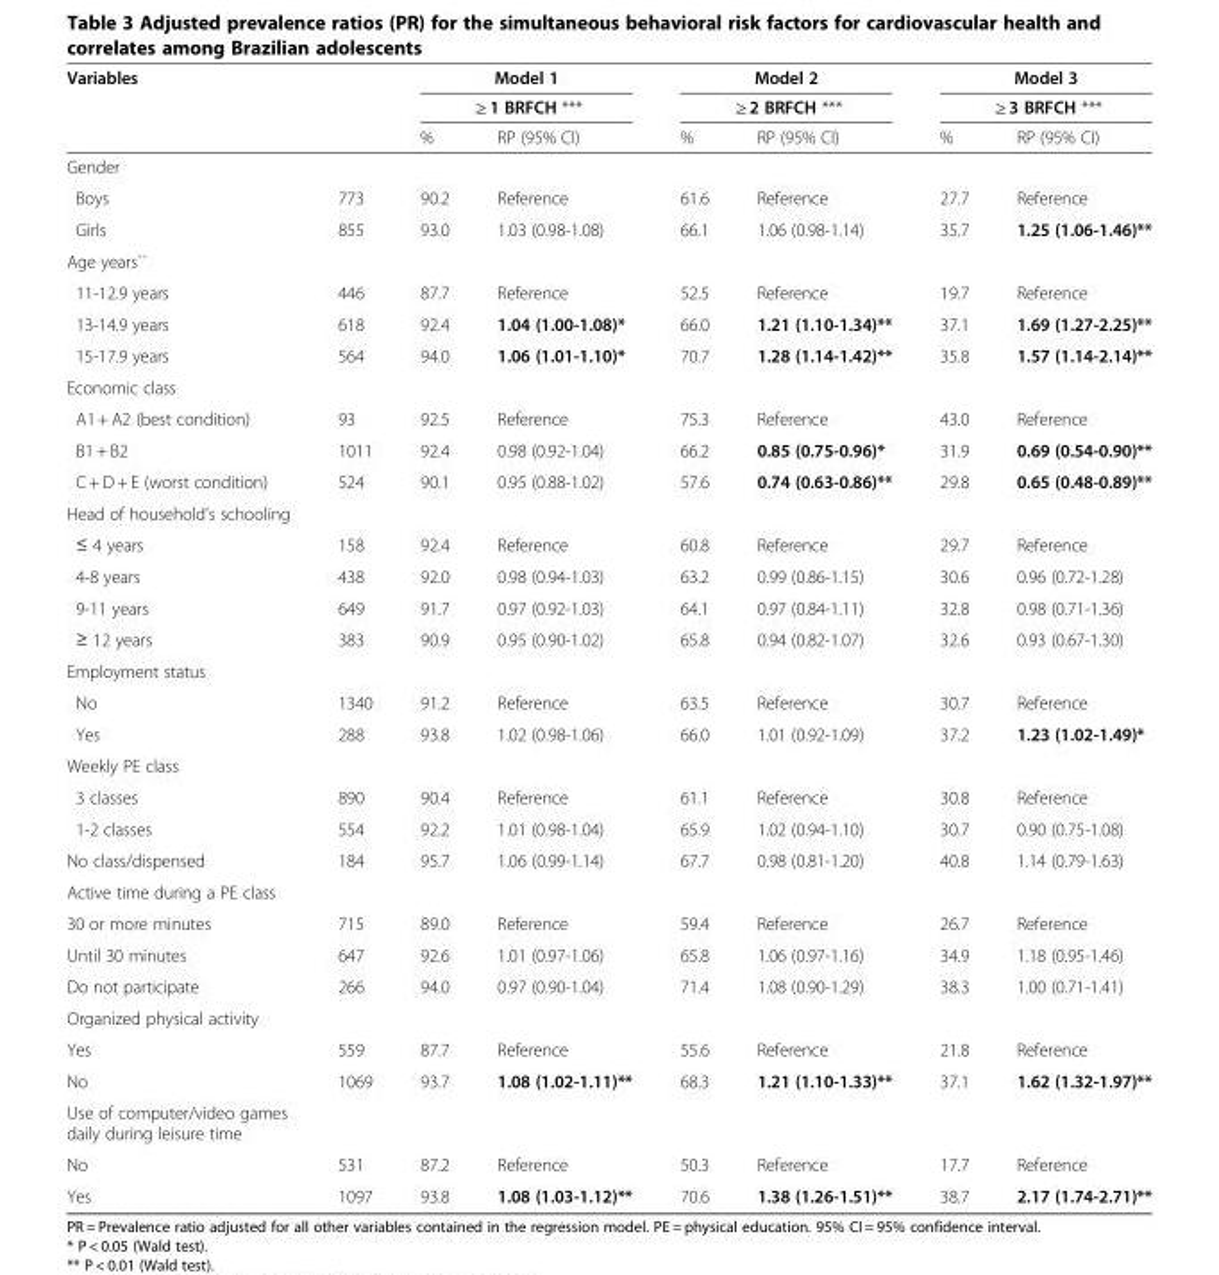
<table><thead><tr><td rowspan="3">Variables</td><td rowspan="3"></td><td rowspan="2" colspan="2">Model 1 ≥ 1 BRFCH ***</td><td rowspan="2" colspan="2">Model 2 ≥ 2 BRFCH ***</td><td rowspan="2" colspan="2">Model 3 ≥ 3 BRFCH ***</td></tr><tr></tr><tr><td>%</td><td>RP (95% CI)</td><td>%</td><td>RP (95% CI)</td><td>%</td><td>RP (95% CI)</td></tr></thead><tbody><tr><td colspan="8">Gender</td></tr><tr><td>Boys</td><td>773</td><td>90.2</td><td>Reference</td><td>61.6</td><td>Reference</td><td>27.7</td><td>Reference</td></tr><tr><td>Girls</td><td>855</td><td>93.0</td><td>1.03 (0.98-1.08)</td><td>66.1</td><td>1.06 (0.98-1.14)</td><td>35.7</td><td>1.25 (1.06-1.46)**</td></tr><tr><td colspan="8">Age years``</td></tr><tr><td>11-12.9 years</td><td>446</td><td>87.7</td><td>Reference</td><td>52.5</td><td>Reference</td><td>19.7</td><td>Reference</td></tr><tr><td>13-14.9 years</td><td>618</td><td>92.4</td><td>1.04 (1.00-1.08)*</td><td>66.0</td><td>1.21 (1.10-1.34)**</td><td>37.1</td><td>1.69 (1.27-2.25)**</td></tr><tr><td>15-17.9 years</td><td>564</td><td>94.0</td><td>1.06 (1.01-1.10)*</td><td>70.7</td><td>1.28 (1.14-1.42)**</td><td>35.8</td><td>1.57 (1.14-2.14)**</td></tr><tr><td colspan="8">Economic class</td></tr><tr><td>A1 + A2 (best condition)</td><td>93</td><td>92.5</td><td>Reference</td><td>75.3</td><td>Reference</td><td>43.0</td><td>Reference</td></tr><tr><td>B1 + B2</td><td>1011</td><td>92.4</td><td>0.98 (0.92-1.04)</td><td>66.2</td><td>0.85 (0.75-0.96)*</td><td>31.9</td><td>0.69 (0.54-0.90)**</td></tr><tr><td>C + D + E (worst condition)</td><td>524</td><td>90.1</td><td>0.95 (0.88-1.02)</td><td>57.6</td><td>0.74 (0.63-0.86)**</td><td>29.8</td><td>0.65 (0.48-0.89)**</td></tr><tr><td colspan="8">Head of household’s schooling</td></tr><tr><td>≤ 4 years</td><td>158</td><td>92.4</td><td>Reference</td><td>60.8</td><td>Reference</td><td>29.7</td><td>Reference</td></tr><tr><td>4-8 years</td><td>438</td><td>92.0</td><td>0.98 (0.94-1.03)</td><td>63.2</td><td>0.99 (0.86-1.15)</td><td>30.6</td><td>0.96 (0.72-1.28)</td></tr><tr><td>9-11 years</td><td>649</td><td>91.7</td><td>0.97 (0.92-1.03)</td><td>64.1</td><td>0.97 (0.84-1.11)</td><td>32.8</td><td>0.98 (0.71-1.36)</td></tr><tr><td>≥ 12 years</td><td>383</td><td>90.9</td><td>0.95 (0.90-1.02)</td><td>65.8</td><td>0.94 (0.82-1.07)</td><td>32.6</td><td>0.93 (0.67-1.30)</td></tr><tr><td colspan="8">Employment status</td></tr><tr><td>No</td><td>1340</td><td>91.2</td><td>Reference</td><td>63.5</td><td>Reference</td><td>30.7</td><td>Reference</td></tr><tr><td>Yes</td><td>288</td><td>93.8</td><td>1.02 (0.98-1.06)</td><td>66.0</td><td>1.01 (0.92-1.09)</td><td>37.2</td><td>1.23 (1.02-1.49)*</td></tr><tr><td colspan="8">Weekly PE class</td></tr><tr><td>3 classes</td><td>890</td><td>90.4</td><td>Reference</td><td>61.1</td><td>Reference</td><td>30.8</td><td>Reference</td></tr><tr><td>1-2 classes</td><td>554</td><td>92.2</td><td>1.01 (0.98-1.04)</td><td>65.9</td><td>1.02 (0.94-1.10)</td><td>30.7</td><td>0.90 (0.75-1.08)</td></tr><tr><td>No class/dispensed</td><td>184</td><td>95.7</td><td>1.06 (0.99-1.14)</td><td>67.7</td><td>0.98 (0.81-1.20)</td><td>40.8</td><td>1.14 (0.79-1.63)</td></tr><tr><td colspan="8">Active time during a PE class</td></tr><tr><td>30 or more minutes</td><td>715</td><td>89.0</td><td>Reference</td><td>59.4</td><td>Reference</td><td>26.7</td><td>Reference</td></tr><tr><td>Until 30 minutes</td><td>647</td><td>92.6</td><td>1.01 (0.97-1.06)</td><td>65.8</td><td>1.06 (0.97-1.16)</td><td>34.9</td><td>1.18 (0.95-1.46)</td></tr><tr><td>Do not participate</td><td>266</td><td>94.0</td><td>0.97 (0.90-1.04)</td><td>71.4</td><td>1.08 (0.90-1.29)</td><td>38.3</td><td>1.00 (0.71-1.41)</td></tr><tr><td colspan="8">Organized physical activity</td></tr><tr><td>Yes</td><td>559</td><td>87.7</td><td>Reference</td><td>55.6</td><td>Reference</td><td>21.8</td><td>Reference</td></tr><tr><td>No</td><td>1069</td><td>93.7</td><td>1.08 (1.02-1.11)**</td><td>68.3</td><td>1.21 (1.10-1.33)**</td><td>37.1</td><td>1.62 (1.32-1.97)**</td></tr><tr><td colspan="8">Use of computer/video games daily during leisure time</td></tr><tr><td>No</td><td>531</td><td>87.2</td><td>Reference</td><td>50.3</td><td>Reference</td><td>17.7</td><td>Reference</td></tr><tr><td>Yes</td><td>1097</td><td>93.8</td><td>1.08 (1.03-1.12)**</td><td>70.6</td><td>1.38 (1.26-1.51)**</td><td>38.7</td><td>2.17 (1.74-2.71)**</td></tr></tbody></table>